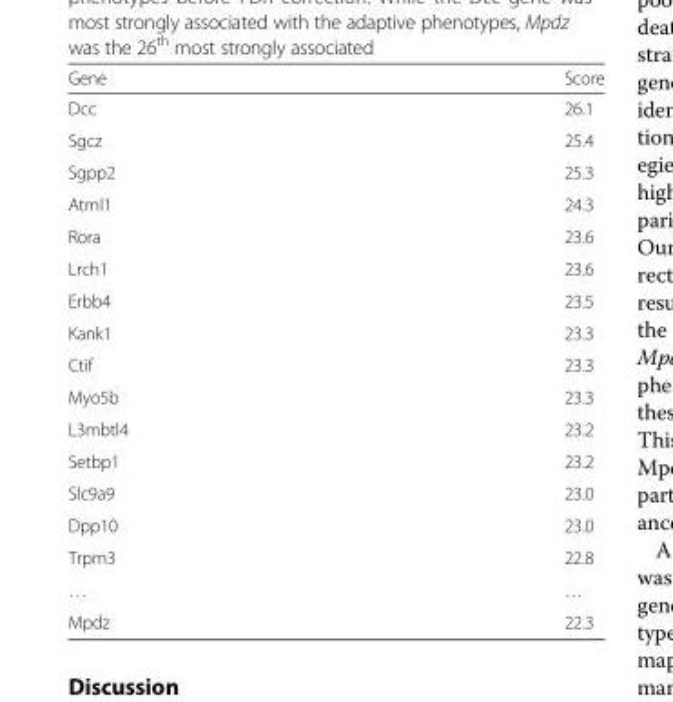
<table><thead><tr><td>Gene</td><td>Score</td></tr></thead><tbody><tr><td>Dcc</td><td>26.1</td></tr><tr><td>Sgcz</td><td>25.4</td></tr><tr><td>Sgpp2</td><td>25.3</td></tr><tr><td>Atrnl1</td><td>24.3</td></tr><tr><td>Rora</td><td>23.6</td></tr><tr><td>Lrch1</td><td>23.6</td></tr><tr><td>Erbb4</td><td>23.5</td></tr><tr><td>Kank1</td><td>23.3</td></tr><tr><td>Ctif</td><td>23.3</td></tr><tr><td>Myo5b</td><td>23.3</td></tr><tr><td>L3mbtl4</td><td>23.2</td></tr><tr><td>Setbp1</td><td>23.2</td></tr><tr><td>Slc9a9</td><td>23.0</td></tr><tr><td>Dpp10</td><td>23.0</td></tr><tr><td>Trpm3</td><td>22.8</td></tr><tr><td>…</td><td>…</td></tr><tr><td>Mpdz</td><td>22.3</td></tr></tbody></table>